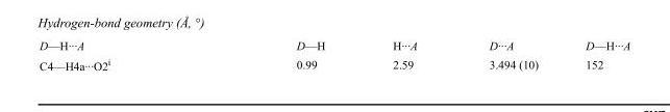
<table><tbody><tr><td>D—H···A</td><td>D—H</td><td>H···A</td><td>D···A</td><td>D—H···A</td></tr><tr><td>C4—H4a···O2<sup>i</sup></td><td>0.99</td><td>2.59</td><td>3.494 (10)</td><td>152</td></tr></tbody></table>